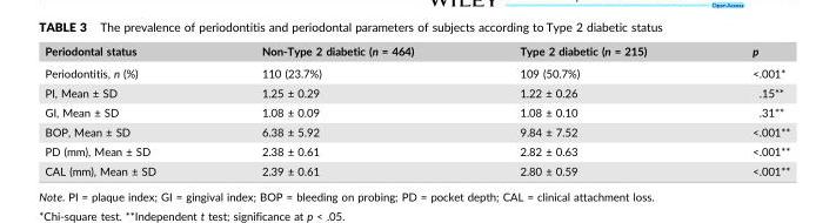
<table><thead><tr><td>Periodontal status</td><td>Non‐Type 2 diabetic (n = 464)</td><td>Type 2 diabetic (n = 215)</td><td>p</td></tr></thead><tbody><tr><td>Periodontitis, n (%)</td><td>110 (23.7%)</td><td>109 (50.7%)</td><td>&lt;.001*</td></tr><tr><td>PI, Mean ± SD</td><td>1.25 ± 0.29</td><td>1.22 ± 0.26</td><td>.15**</td></tr><tr><td>GI, Mean ± SD</td><td>1.08 ± 0.09</td><td>1.08 ± 0.10</td><td>.31**</td></tr><tr><td>BOP, Mean ± SD</td><td>6.38 ± 5.92</td><td>9.84 ± 7.52</td><td>&lt;.001**</td></tr><tr><td>PD (mm), Mean ± SD</td><td>2.38 ± 0.61</td><td>2.82 ± 0.63</td><td>&lt;.001**</td></tr><tr><td>CAL (mm), Mean ± SD</td><td>2.39 ± 0.61</td><td>2.80 ± 0.59</td><td>&lt;.001**</td></tr></tbody></table>